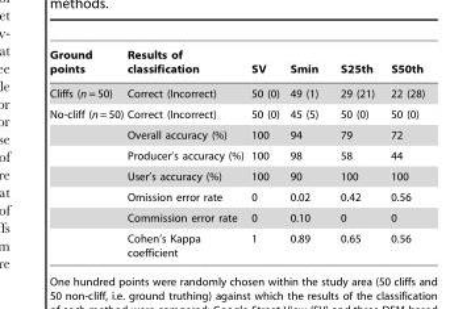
<table><thead><tr><td>Ground points</td><td>Results of classification</td><td>SV</td><td>Smin</td><td>S25th</td><td>S50th</td></tr></thead><tbody><tr><td>Cliffs (n = 50)</td><td>Correct (Incorrect)</td><td>50 (0)</td><td>49 (1)</td><td>29 (21)</td><td>22 (28)</td></tr><tr><td rowspan="7">No-cliff (n = 50)</td><td>Correct (Incorrect)</td><td>50 (0)</td><td>45 (5)</td><td>50 (0)</td><td>50 (0)</td></tr><tr><td>Overall accuracy (%)</td><td>100</td><td>94</td><td>79</td><td>72</td></tr><tr><td>Producer’s accuracy (%)</td><td>100</td><td>98</td><td>58</td><td>44</td></tr><tr><td>User’s accuracy (%)</td><td>100</td><td>90</td><td>100</td><td>100</td></tr><tr><td>Omission error rate</td><td>0</td><td>0.02</td><td>0.42</td><td>0.56</td></tr><tr><td>Commission error rate</td><td>0</td><td>0.10</td><td>0</td><td>0</td></tr><tr><td>Cohen’s Kappa coefficient</td><td>1</td><td>0.89</td><td>0.65</td><td>0.56</td></tr></tbody></table>